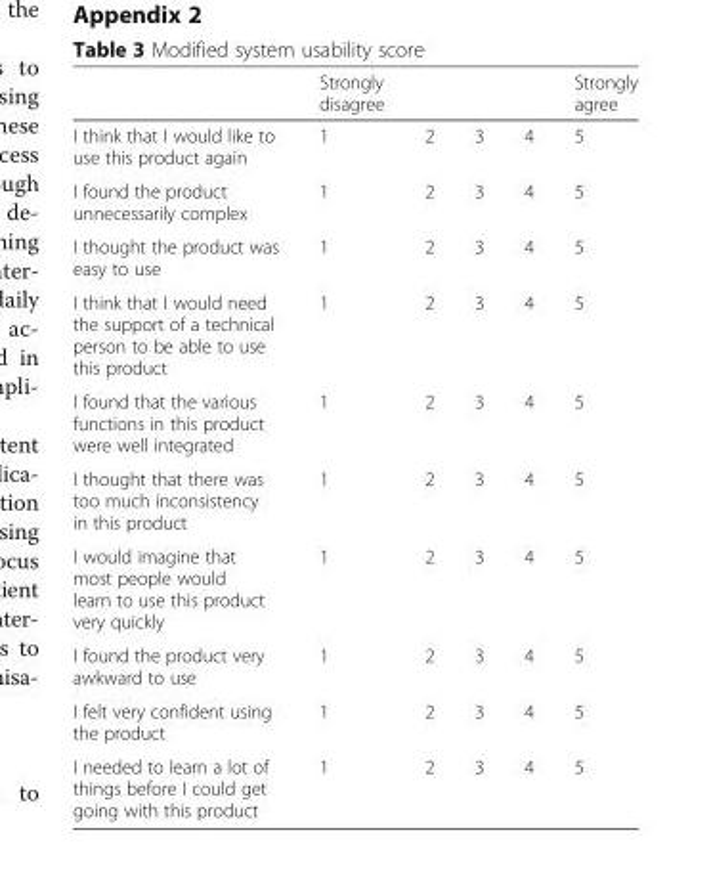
<table><thead><tr><td></td><td>Strongly disagree</td><td></td><td></td><td></td><td>Strongly agree</td></tr></thead><tbody><tr><td>I think that I would like to use this product again</td><td>1</td><td>2</td><td>3</td><td>4</td><td>5</td></tr><tr><td>I found the product unnecessarily complex</td><td>1</td><td>2</td><td>3</td><td>4</td><td>5</td></tr><tr><td>I thought the product was easy to use</td><td>1</td><td>2</td><td>3</td><td>4</td><td>5</td></tr><tr><td>I think that I would need the support of a technical person to be able to use this product</td><td>1</td><td>2</td><td>3</td><td>4</td><td>5</td></tr><tr><td>I found that the various functions in this product were well integrated</td><td>1</td><td>2</td><td>3</td><td>4</td><td>5</td></tr><tr><td>I thought that there was too much inconsistency in this product</td><td>1</td><td>2</td><td>3</td><td>4</td><td>5</td></tr><tr><td>I would imagine that most people would learn to use this product very quickly</td><td>1</td><td>2</td><td>3</td><td>4</td><td>5</td></tr><tr><td>I found the product very awkward to use</td><td>1</td><td>2</td><td>3</td><td>4</td><td>5</td></tr><tr><td>I felt very confident using the product</td><td>1</td><td>2</td><td>3</td><td>4</td><td>5</td></tr><tr><td>I needed to learn a lot of things before I could get going with this product</td><td>1</td><td>2</td><td>3</td><td>4</td><td>5</td></tr></tbody></table>